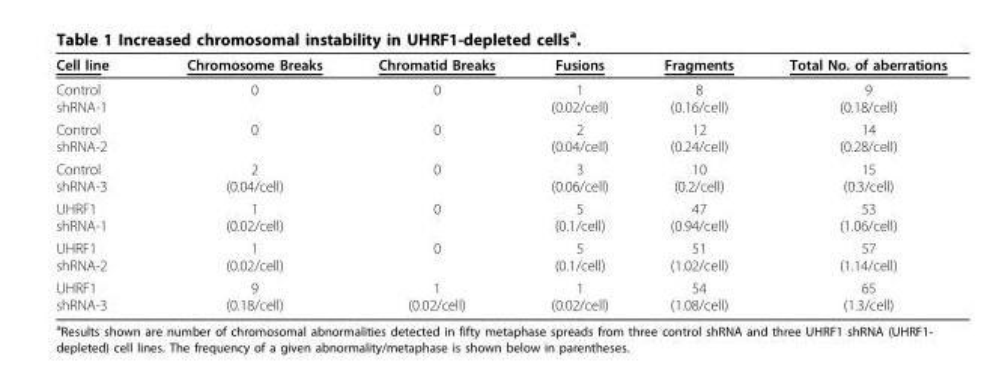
<table><thead><tr><td>Cell line</td><td>Chromosome Breaks</td><td>Chromatid Breaks</td><td>Fusions</td><td>Fragments</td><td>Total No. of aberrations</td></tr></thead><tbody><tr><td>Control shRNA-1</td><td>0</td><td>0</td><td>1 (0.02/cell)</td><td>8 (0.16/cell)</td><td>9 (0.18/cell)</td></tr><tr><td>Control shRNA-2</td><td>0</td><td>0</td><td>2 (0.04/cell)</td><td>12 (0.24/cell)</td><td>14 (0.28/cell)</td></tr><tr><td>Control shRNA-3</td><td>2 (0.04/cell)</td><td>0</td><td>3 (0.06/cell)</td><td>10 (0.2/cell)</td><td>15 (0.3/cell)</td></tr><tr><td>UHRF1 shRNA-1</td><td>1 (0.02/cell)</td><td>0</td><td>5 (0.1/cell)</td><td>47 (0.94/cell)</td><td>53 (1.06/cell)</td></tr><tr><td>UHRF1 shRNA-2</td><td>1 (0.02/cell)</td><td>0</td><td>5 (0.1/cell)</td><td>51 (1.02/cell)</td><td>57 (1.14/cell)</td></tr><tr><td>UHRF1 shRNA-3</td><td>9 (0.18/cell)</td><td>1 (0.02/cell)</td><td>1 (0.02/cell)</td><td>54 (1.08/cell)</td><td>65 (1.3/cell)</td></tr></tbody></table>